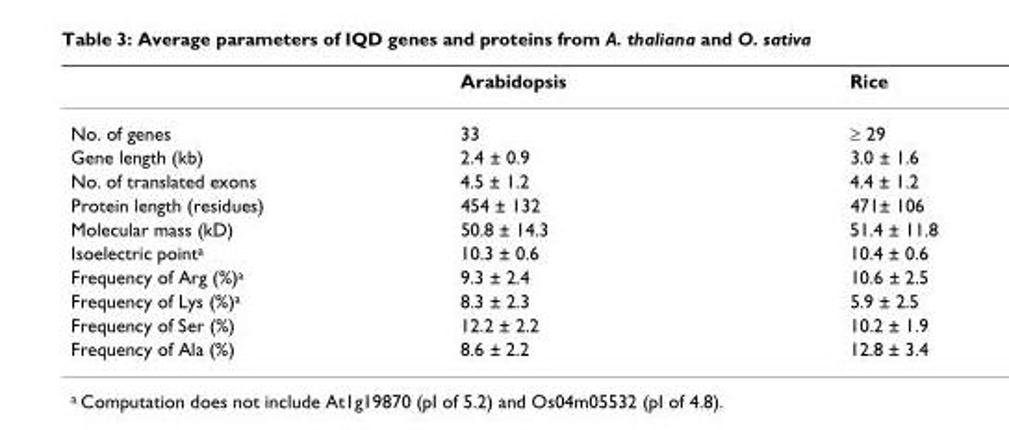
<table><thead><tr><td></td><td>Arabidopsis</td><td>Rice</td></tr></thead><tbody><tr><td>No. of genes</td><td>33</td><td>≥ 29</td></tr><tr><td>Gene length (kb)</td><td>2.4 ± 0.9</td><td>3.0 ± 1.6</td></tr><tr><td>No. of translated exons</td><td>4.5 ± 1.2</td><td>4.4 ± 1.2</td></tr><tr><td>Protein length (residues)</td><td>454 ± 132</td><td>471± 106</td></tr><tr><td>Molecular mass (kD)</td><td>50.8 ± 14.3</td><td>51.4 ± 11.8</td></tr><tr><td>Isoelectric point<sup>a</sup></td><td>10.3 ± 0.6</td><td>10.4 ± 0.6</td></tr><tr><td>Frequency of Arg (%)<sup>a</sup></td><td>9.3 ± 2.4</td><td>10.6 ± 2.5</td></tr><tr><td>Frequency of Lys (%)<sup>a</sup></td><td>8.3 ± 2.3</td><td>5.9 ± 2.5</td></tr><tr><td>Frequency of Ser (%)</td><td>12.2 ± 2.2</td><td>10.2 ± 1.9</td></tr><tr><td>Frequency of Ala (%)</td><td>8.6 ± 2.2</td><td>12.8 ± 3.4</td></tr></tbody></table>